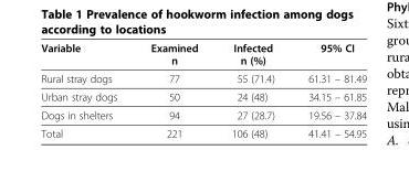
<table><thead><tr><td>Variable</td><td>Examined n</td><td>Infected n (%)</td><td>95% CI</td></tr></thead><tbody><tr><td>Rural stray dogs</td><td>77</td><td>55 (71.4)</td><td>61.31 – 81.49</td></tr><tr><td>Urban stray dogs</td><td>50</td><td>24 (48)</td><td>34.15 – 61.85</td></tr><tr><td>Dogs in shelters</td><td>94</td><td>27 (28.7)</td><td>19.56 – 37.84</td></tr><tr><td>Total</td><td>221</td><td>106 (48)</td><td>41.41 – 54.95</td></tr></tbody></table>